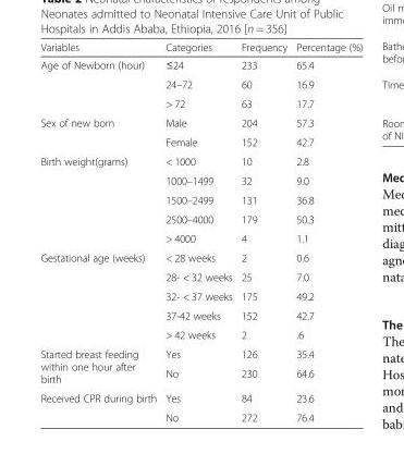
<table><thead><tr><td>Variables</td><td>Categories</td><td>Frequency</td><td>Percentage (%)</td></tr></thead><tbody><tr><td rowspan="3">Age of Newborn (hour)</td><td>≤24</td><td>233</td><td>65.4</td></tr><tr><td>24–72</td><td>60</td><td>16.9</td></tr><tr><td>&gt; 72</td><td>63</td><td>17.7</td></tr><tr><td rowspan="2">Sex of new born</td><td>Male</td><td>204</td><td>57.3</td></tr><tr><td>Female</td><td>152</td><td>42.7</td></tr><tr><td rowspan="5">Birth weight(grams)</td><td>&lt; 1000</td><td>10</td><td>2.8</td></tr><tr><td>1000–1499</td><td>32</td><td>9.0</td></tr><tr><td>1500–2499</td><td>131</td><td>36.8</td></tr><tr><td>2500–4000</td><td>179</td><td>50.3</td></tr><tr><td>&gt; 4000</td><td>4</td><td>1.1</td></tr><tr><td rowspan="5">Gestational age (weeks)</td><td>&lt; 28 weeks</td><td>2</td><td>0.6</td></tr><tr><td>28- &lt; 32 weeks</td><td>25</td><td>7.0</td></tr><tr><td>32- &lt; 37 weeks</td><td>175</td><td>49.2</td></tr><tr><td>37-42 weeks</td><td>152</td><td>42.7</td></tr><tr><td>&gt; 42 weeks</td><td>2</td><td>.6</td></tr><tr><td rowspan="2">Started breast feeding within one hour after birth</td><td>Yes</td><td>126</td><td>35.4</td></tr><tr><td>No</td><td>230</td><td>64.6</td></tr><tr><td rowspan="2">Received CPR during birth</td><td>Yes</td><td>84</td><td>23.6</td></tr><tr><td>No</td><td>272</td><td>76.4</td></tr></tbody></table>